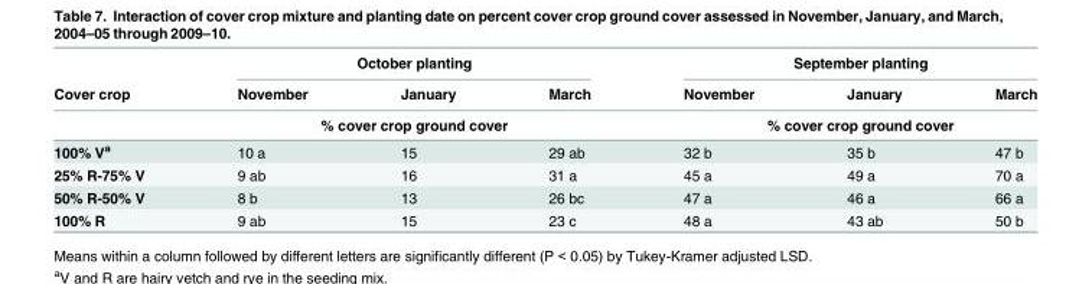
<table><thead><tr><td rowspan="3">Cover crop</td><td colspan="3">October planting</td><td colspan="3">September planting</td></tr><tr><td>November</td><td>January</td><td>March</td><td>November</td><td>January</td><td>March</td></tr><tr><td colspan="3">% cover crop ground cover</td><td colspan="3">% cover crop ground cover</td></tr></thead><tbody><tr><td>100% V<sup>a</sup></td><td>10 a</td><td>15</td><td>29 ab</td><td>32 b</td><td>35 b</td><td>47 b</td></tr><tr><td>25% R-75% V</td><td>9 ab</td><td>16</td><td>31 a</td><td>45 a</td><td>49 a</td><td>70 a</td></tr><tr><td>50% R-50% V</td><td>8 b</td><td>13</td><td>26 bc</td><td>47 a</td><td>46 a</td><td>66 a</td></tr><tr><td>100% R</td><td>9 ab</td><td>15</td><td>23 c</td><td>48 a</td><td>43 ab</td><td>50 b</td></tr></tbody></table>